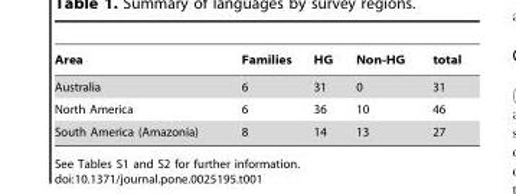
<table><thead><tr><td>Area</td><td>Families</td><td>HG</td><td>Non-HG</td><td>total</td></tr></thead><tbody><tr><td>Australia</td><td>6</td><td>31</td><td>0</td><td>31</td></tr><tr><td>North America</td><td>6</td><td>36</td><td>10</td><td>46</td></tr><tr><td>South America (Amazonia)</td><td>8</td><td>14</td><td>13</td><td>27</td></tr></tbody></table>